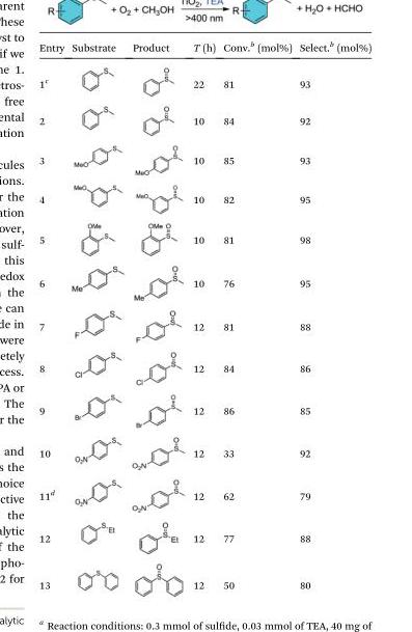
<table><thead><tr><td>Entry</td><td>Substrate</td><td>Product</td><td>T (h)</td><td>Conv.<sup>b</sup> (mol%)</td><td>Select.<sup>b</sup> (mol%)</td></tr></thead><tbody><tr><td>1<sup>c</sup></td><td></td><td></td><td>22</td><td>81</td><td>93</td></tr><tr><td>2</td><td></td><td></td><td>10</td><td>84</td><td>92</td></tr><tr><td>3</td><td></td><td></td><td>10</td><td>85</td><td>93</td></tr><tr><td>4</td><td></td><td></td><td>10</td><td>82</td><td>95</td></tr><tr><td>5</td><td></td><td></td><td>10</td><td>81</td><td>98</td></tr><tr><td>6</td><td></td><td></td><td>10</td><td>76</td><td>95</td></tr><tr><td>7</td><td></td><td></td><td>12</td><td>81</td><td>88</td></tr><tr><td>8</td><td></td><td></td><td>12</td><td>84</td><td>86</td></tr><tr><td>9</td><td></td><td></td><td>12</td><td>86</td><td>85</td></tr><tr><td>10</td><td></td><td></td><td>12</td><td>33</td><td>92</td></tr><tr><td>11<sup>d</sup></td><td></td><td></td><td>12</td><td>62</td><td>79</td></tr><tr><td>12</td><td></td><td></td><td>12</td><td>77</td><td>88</td></tr><tr><td>13</td><td></td><td></td><td>12</td><td>50</td><td>80</td></tr></tbody></table>